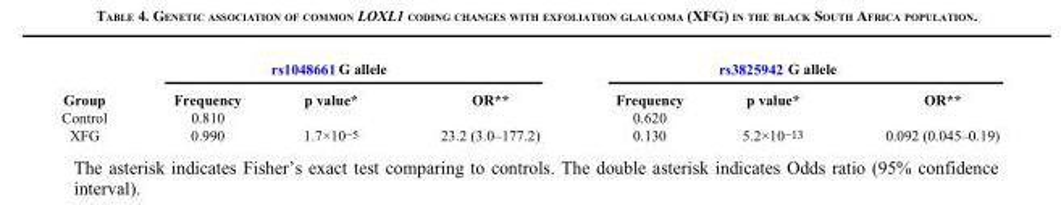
<table><thead><tr><td rowspan="2">Group</td><td colspan="3">rs1048661 G allele</td><td colspan="3">rs3825942 G allele</td></tr><tr><td>Frequency</td><td>p value*</td><td>OR**</td><td>Frequency</td><td>p value*</td><td>OR**</td></tr></thead><tbody><tr><td>Control</td><td>0.810</td><td></td><td></td><td>0.620</td><td></td><td></td></tr><tr><td>XFG</td><td>0.990</td><td>1.7×10<sup>−5</sup></td><td>23.2 (3.0–177.2)</td><td>0.130</td><td>5.2×10<sup>−13</sup></td><td>0.092 (0.045–0.19)</td></tr></tbody></table>